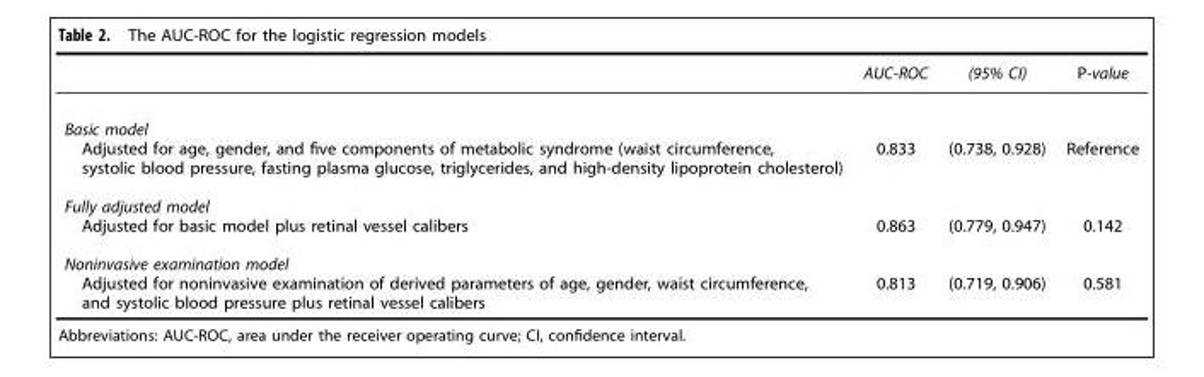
<table><thead><tr><td></td><td>AUC-ROC</td><td>(95% CI)</td><td>P-value</td></tr></thead><tbody><tr><td colspan="4">Basic model</td></tr><tr><td>Adjusted for age, gender, and five components of metabolic syndrome (waist circumference, systolic blood pressure, fasting plasma glucose, triglycerides, and high-density lipoprotein cholesterol)</td><td>0.833</td><td>(0.738, 0.928)</td><td>Reference</td></tr><tr><td colspan="4">Fully adjusted model</td></tr><tr><td>Adjusted for basic model plus retinal vessel calibers</td><td>0.863</td><td>(0.779, 0.947)</td><td>0.142</td></tr><tr><td colspan="4">Noninvasive examination model</td></tr><tr><td>Adjusted for noninvasive examination of derived parameters of age, gender, waist circumference, and systolic blood pressure plus retinal vessel calibers</td><td>0.813</td><td>(0.719, 0.906)</td><td>0.581</td></tr></tbody></table>